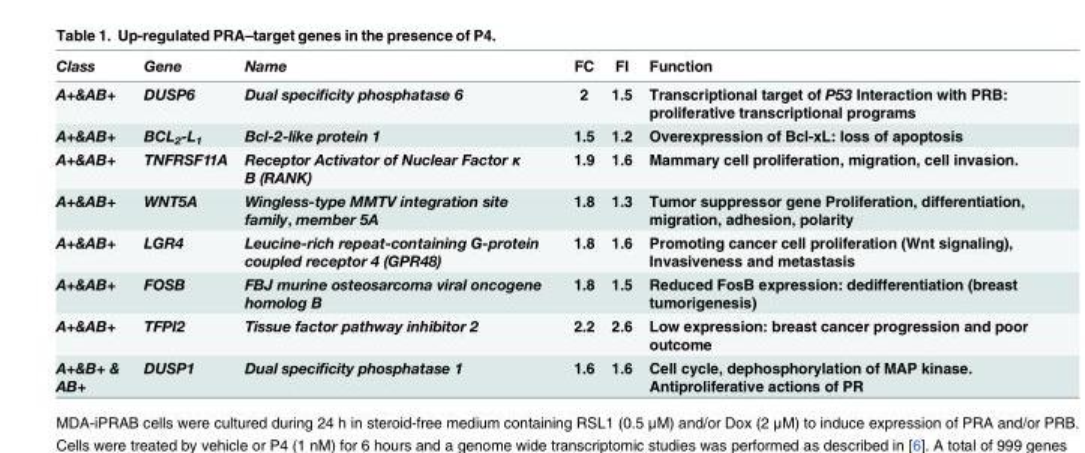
<table><thead><tr><td>Class</td><td>Gene</td><td>Name</td><td>FC</td><td>FI</td><td>Function</td></tr></thead><tbody><tr><td>A+&amp;AB+</td><td>DUSP6</td><td>Dual specificity phosphatase 6</td><td>2</td><td>1.5</td><td>Transcriptional target of P53 Interaction with PRB: proliferative transcriptional programs</td></tr><tr><td>A+&amp;AB+</td><td>BCL<sub>2</sub>-L<sub>1</sub></td><td>Bcl-2-like protein 1</td><td>1.5</td><td>1.2</td><td>Overexpression of Bcl-xL: loss of apoptosis</td></tr><tr><td>A+&amp;AB+</td><td>TNFRSF11A</td><td>Receptor Activator of Nuclear Factor κ B (RANK)</td><td>1.9</td><td>1.6</td><td>Mammary cell proliferation, migration, cell invasion.</td></tr><tr><td>A+&amp;AB+</td><td>WNT5A</td><td>Wingless-type MMTV integration site family, member 5A</td><td>1.8</td><td>1.3</td><td>Tumor suppressor gene Proliferation, differentiation, migration, adhesion, polarity</td></tr><tr><td>A+&amp;AB+</td><td>LGR4</td><td>Leucine-rich repeat-containing G-protein coupled receptor 4 (GPR48)</td><td>1.8</td><td>1.6</td><td>Promoting cancer cell proliferation (Wnt signaling), Invasiveness and metastasis</td></tr><tr><td>A+&amp;AB+</td><td>FOSB</td><td>FBJ murine osteosarcoma viral oncogene homolog B</td><td>1.8</td><td>1.5</td><td>Reduced FosB expression: dedifferentiation (breast tumorigenesis)</td></tr><tr><td>A+&amp;AB+</td><td>TFPI2</td><td>Tissue factor pathway inhibitor 2</td><td>2.2</td><td>2.6</td><td>Low expression: breast cancer progression and poor outcome</td></tr><tr><td>A+&amp;B+ &amp; AB+</td><td>DUSP1</td><td>Dual specificity phosphatase 1</td><td>1.6</td><td>1.6</td><td>Cell cycle, dephosphorylation of MAP kinase. Antiproliferative actions of PR</td></tr></tbody></table>